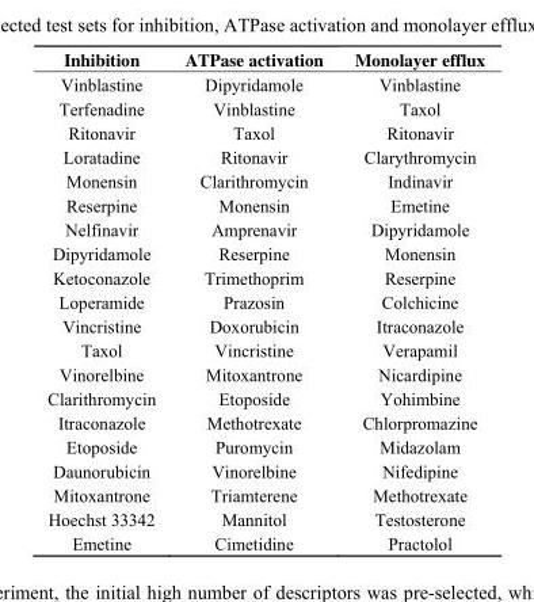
<table><thead><tr><td>Inhibition</td><td>ATPase activation</td><td>Monolayer efflux</td></tr></thead><tbody><tr><td>Vinblastine</td><td>Dipyridamole</td><td>Vinblastine</td></tr><tr><td>Terfenadine</td><td>Vinblastine</td><td>Taxol</td></tr><tr><td>Ritonavir</td><td>Taxol</td><td>Ritonavir</td></tr><tr><td>Loratadine</td><td>Ritonavir</td><td>Clarythromycin</td></tr><tr><td>Monensin</td><td>Clarithromycin</td><td>Indinavir</td></tr><tr><td>Reserpine</td><td>Monensin</td><td>Emetine</td></tr><tr><td>Nelfinavir</td><td>Amprenavir</td><td>Dipyridamole</td></tr><tr><td>Dipyridamole</td><td>Reserpine</td><td>Monensin</td></tr><tr><td>Ketoconazole</td><td>Trimethoprim</td><td>Reserpine</td></tr><tr><td>Loperamide</td><td>Prazosin</td><td>Colchicine</td></tr><tr><td>Vincristine</td><td>Doxorubicin</td><td>Itraconazole</td></tr><tr><td>Taxol</td><td>Vincristine</td><td>Verapamil</td></tr><tr><td>Vinorelbine</td><td>Mitoxantrone</td><td>Nicardipine</td></tr><tr><td>Clarithromycin</td><td>Etoposide</td><td>Yohimbine</td></tr><tr><td>Itraconazole</td><td>Methotrexate</td><td>Chlorpromazine</td></tr><tr><td>Etoposide</td><td>Puromycin</td><td>Midazolam</td></tr><tr><td>Daunorubicin</td><td>Vinorelbine</td><td>Nifedipine</td></tr><tr><td>Mitoxantrone</td><td>Triamterene</td><td>Methotrexate</td></tr><tr><td>Hoechst 33342</td><td>Mannitol</td><td>Testosterone</td></tr><tr><td>Emetine</td><td>Cimetidine</td><td>Practolol</td></tr></tbody></table>